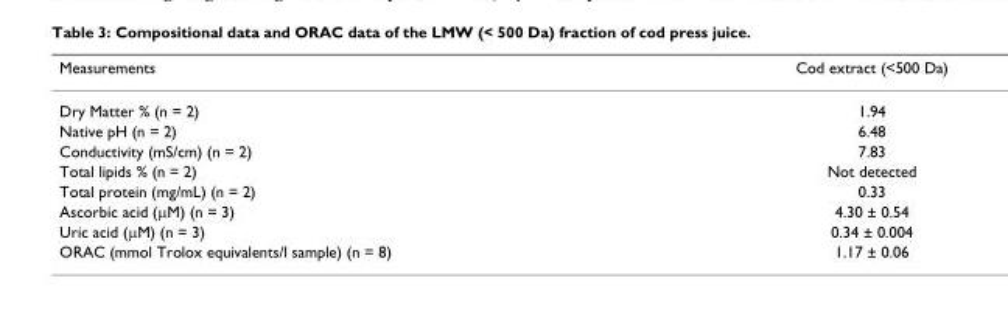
<table><thead><tr><td>Measurements</td><td>Cod extract (&lt;500 Da)</td></tr></thead><tbody><tr><td>Dry Matter % (n = 2)</td><td>1.94</td></tr><tr><td>Native pH (n = 2)</td><td>6.48</td></tr><tr><td>Conductivity (mS/cm) (n = 2)</td><td>7.83</td></tr><tr><td>Total lipids % (n = 2)</td><td>Not detected</td></tr><tr><td>Total protein (mg/mL) (n = 2)</td><td>0.33</td></tr><tr><td>Ascorbic acid (μM) (n = 3)</td><td>4.30 ± 0.54</td></tr><tr><td>Uric acid (μM) (n = 3)</td><td>0.34 ± 0.004</td></tr><tr><td>ORAC (mmol Trolox equivalents/l sample) (n = 8)</td><td>1.17 ± 0.06</td></tr></tbody></table>